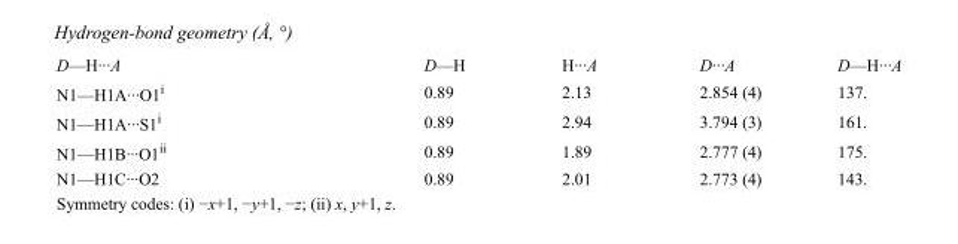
<table><tbody><tr><td>D—H···A</td><td>D—H</td><td>H···A</td><td>D···A</td><td>D—H···A</td></tr><tr><td>N1—H1A···O1<sup>i</sup></td><td>0.89</td><td>2.13</td><td>2.854 (4)</td><td>137.</td></tr><tr><td>N1—H1A···S1<sup>i</sup></td><td>0.89</td><td>2.94</td><td>3.794 (3)</td><td>161.</td></tr><tr><td>N1—H1B···O1<sup>ii</sup></td><td>0.89</td><td>1.89</td><td>2.777 (4)</td><td>175.</td></tr><tr><td>N1—H1C···O2</td><td>0.89</td><td>2.01</td><td>2.773 (4)</td><td>143.</td></tr></tbody></table>